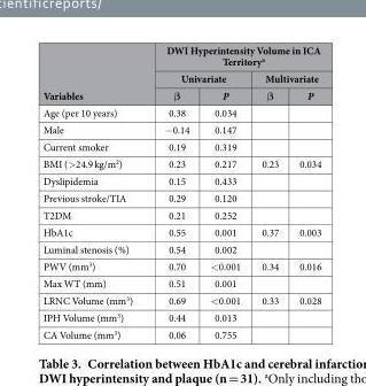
<table><thead><tr><td rowspan="3">Variables</td><td colspan="4">DWI Hyperintensity Volume in ICA Territory<sup>a</sup></td></tr><tr><td colspan="2">Univariate</td><td colspan="2">Multivariate</td></tr><tr><td>β</td><td>P</td><td>β</td><td>P</td></tr></thead><tbody><tr><td>Age (per 10 years)</td><td>0.38</td><td>0.034</td><td></td><td></td></tr><tr><td>Male</td><td>− 0.14</td><td>0.147</td><td></td><td></td></tr><tr><td>Current smoker</td><td>0.19</td><td>0.319</td><td></td><td></td></tr><tr><td>BMI (&gt; 24.9 kg/m<sup>2</sup>)</td><td>0.23</td><td>0.217</td><td>0.23</td><td>0.034</td></tr><tr><td>Dyslipidemia</td><td>0.15</td><td>0.433</td><td></td><td></td></tr><tr><td>Previous stroke/TIA</td><td>0.29</td><td>0.120</td><td></td><td></td></tr><tr><td>T2DM</td><td>0.21</td><td>0.252</td><td></td><td></td></tr><tr><td>HbA1c</td><td>0.55</td><td>0.001</td><td>0.37</td><td>0.003</td></tr><tr><td>Luminal stenosis (%)</td><td>0.54</td><td>0.002</td><td></td><td></td></tr><tr><td>PWV (mm<sup>3</sup>)</td><td>0.70</td><td>&lt; 0.001</td><td>0.34</td><td>0.016</td></tr><tr><td>Max WT (mm)</td><td>0.51</td><td>0.001</td><td></td><td></td></tr><tr><td>LRNC Volume (mm<sup>3</sup>)</td><td>0.69</td><td>&lt; 0.001</td><td>0.33</td><td>0.028</td></tr><tr><td>IPH Volume (mm<sup>3</sup>)</td><td>0.44</td><td>0.013</td><td></td><td></td></tr><tr><td>CA Volume (mm<sup>3</sup>)</td><td>0.06</td><td>0.755</td><td></td><td></td></tr></tbody></table>